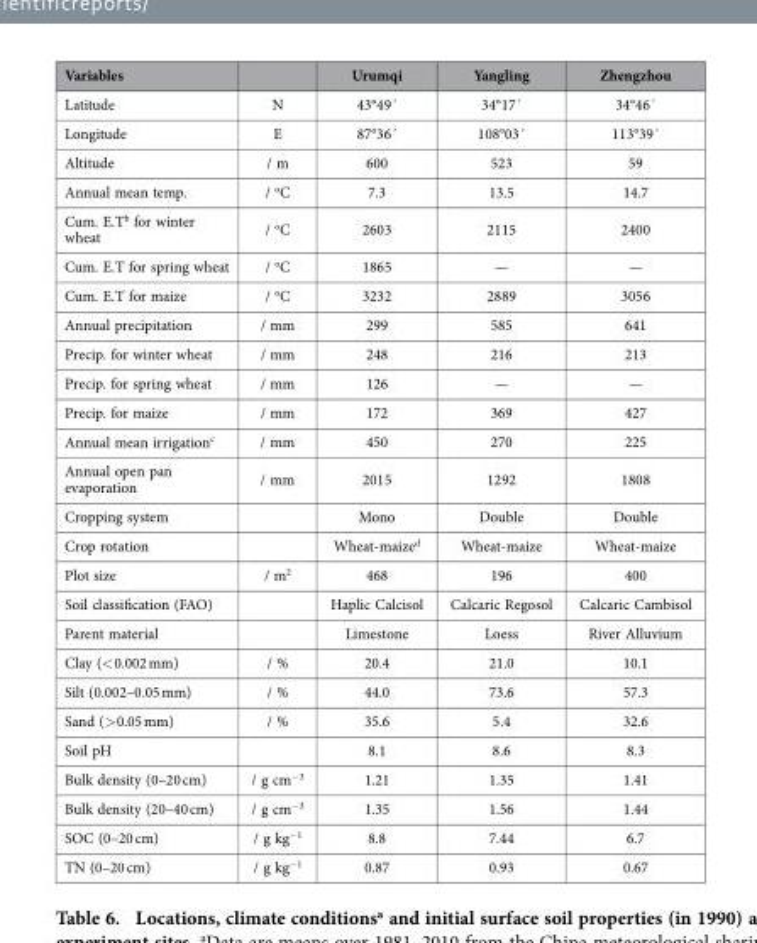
<table><thead><tr><td>Variables</td><td></td><td>Urumqi</td><td>Yangling</td><td>Zhengzhou</td></tr></thead><tbody><tr><td>Latitude</td><td>N</td><td>43°49´</td><td>34°17´</td><td>34°46´</td></tr><tr><td>Longitude</td><td>E</td><td>87°36´</td><td>108°03´</td><td>113°39´</td></tr><tr><td>Altitude</td><td>/ m</td><td>600</td><td>523</td><td>59</td></tr><tr><td>Annual mean temp.</td><td>/ <sup>o</sup>C</td><td>7.3</td><td>13.5</td><td>14.7</td></tr><tr><td>Cum. E.T<sup>b</sup> for winter wheat</td><td>/ <sup>o</sup>C</td><td>2603</td><td>2115</td><td>2400</td></tr><tr><td>Cum. E.T for spring wheat</td><td>/ <sup>o</sup>C</td><td>1865</td><td>—</td><td>—</td></tr><tr><td>Cum. E.T for maize</td><td>/ <sup>o</sup>C</td><td>3232</td><td>2889</td><td>3056</td></tr><tr><td>Annual precipitation</td><td>/ mm</td><td>299</td><td>585</td><td>641</td></tr><tr><td>Precip. for winter wheat</td><td>/ mm</td><td>248</td><td>216</td><td>213</td></tr><tr><td>Precip. for spring wheat</td><td>/ mm</td><td>126</td><td>—</td><td>—</td></tr><tr><td>Precip. for maize</td><td>/ mm</td><td>172</td><td>369</td><td>427</td></tr><tr><td>Annual mean irrigation<sup>c</sup></td><td>/ mm</td><td>450</td><td>270</td><td>225</td></tr><tr><td>Annual open pan evaporation</td><td>/ mm</td><td>2015</td><td>1292</td><td>1808</td></tr><tr><td>Cropping system</td><td></td><td>Mono</td><td>Double</td><td>Double</td></tr><tr><td>Crop rotation</td><td></td><td>Wheat-maize<sup>d</sup></td><td>Wheat-maize</td><td>Wheat-maize</td></tr><tr><td>Plot size</td><td>/ m<sup>2</sup></td><td>468</td><td>196</td><td>400</td></tr><tr><td>Soil classification (FAO)</td><td></td><td>Haplic Calcisol</td><td>Calcaric Regosol</td><td>Calcaric Cambisol</td></tr><tr><td>Parent material</td><td></td><td>Limestone</td><td>Loess</td><td>River Alluvium</td></tr><tr><td>Clay (&lt; 0.002 mm)</td><td>/ %</td><td>20.4</td><td>21.0</td><td>10.1</td></tr><tr><td>Silt (0.002–0.05 mm)</td><td>/ %</td><td>44.0</td><td>73.6</td><td>57.3</td></tr><tr><td>Sand (&gt; 0.05 mm)</td><td>/ %</td><td>35.6</td><td>5.4</td><td>32.6</td></tr><tr><td>Soil pH</td><td></td><td>8.1</td><td>8.6</td><td>8.3</td></tr><tr><td>Bulk density (0–20 cm)</td><td>/ g cm<sup>−3</sup></td><td>1.21</td><td>1.35</td><td>1.41</td></tr><tr><td>Bulk density (20–40 cm)</td><td>/ g cm<sup>−3</sup></td><td>1.35</td><td>1.56</td><td>1.44</td></tr><tr><td>SOC (0–20 cm)</td><td>/ g kg<sup>−1</sup></td><td>8.8</td><td>7.44</td><td>6.7</td></tr><tr><td>TN (0–20 cm)</td><td>/ g kg<sup>−1</sup></td><td>0.87</td><td>0.93</td><td>0.67</td></tr></tbody></table>